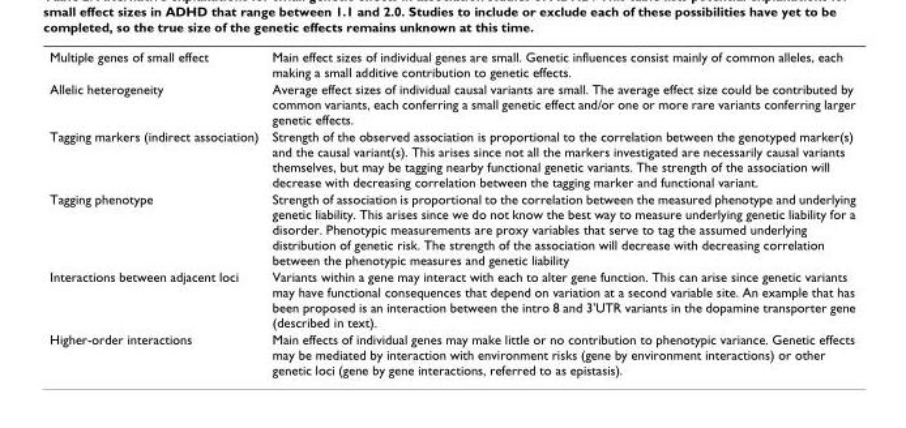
<table><tbody><tr><td>Multiple genes of small effect</td><td>Main effect sizes of individual genes are small. Genetic influences consist mainly of common alleles, each making a small additive contribution to genetic effects.</td></tr><tr><td>Allelic heterogeneity</td><td>Average effect sizes of individual causal variants are small. The average effect size could be contributed by common variants, each conferring a small genetic effect and/or one or more rare variants conferring larger genetic effects.</td></tr><tr><td>Tagging markers (indirect association)</td><td>Strength of the observed association is proportional to the correlation between the genotyped marker(s) and the causal variant(s). This arises since not all the markers investigated are necessarily causal variants themselves, but may be tagging nearby functional genetic variants. The strength of the association will decrease with decreasing correlation between the tagging marker and functional variant.</td></tr><tr><td>Tagging phenotype</td><td>Strength of association is proportional to the correlation between the measured phenotype and underlying genetic liability. This arises since we do not know the best way to measure underlying genetic liability for a disorder. Phenotypic measurements are proxy variables that serve to tag the assumed underlying distribution of genetic risk. The strength of the association will decrease with decreasing correlation between the phenotypic measures and genetic liability</td></tr><tr><td>Interactions between adjacent loci</td><td>Variants within a gene may interact with each to alter gene function. This can arise since genetic variants may have functional consequences that depend on variation at a second variable site. An example that has been proposed is an interaction between the intro 8 and 3&#x27;UTR variants in the dopamine transporter gene (described in text).</td></tr><tr><td>Higher-order interactions</td><td>Main effects of individual genes may make little or no contribution to phenotypic variance. Genetic effects may be mediated by interaction with environment risks (gene by environment interactions) or other genetic loci (gene by gene interactions, referred to as epistasis).</td></tr></tbody></table>